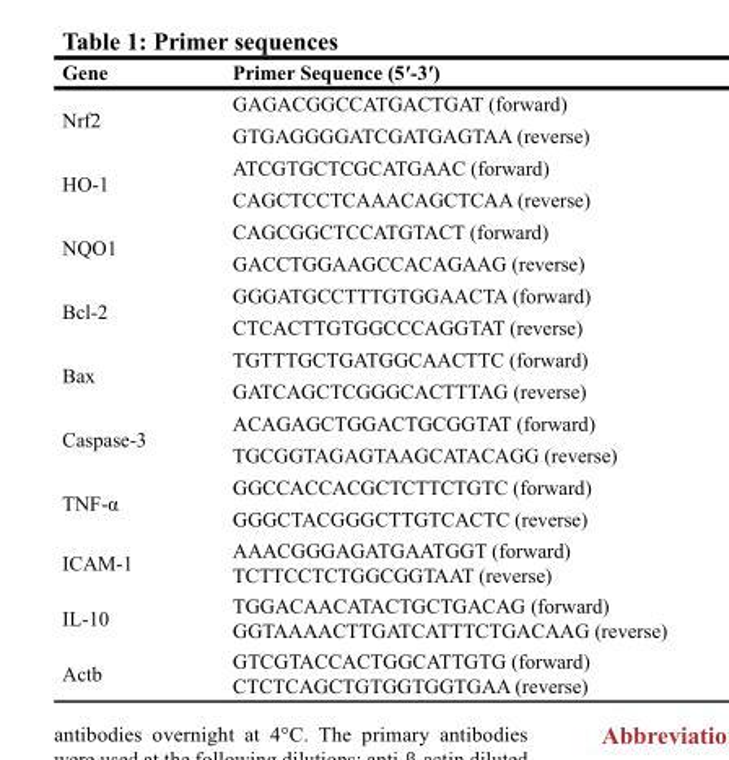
<table><thead><tr><td>Gene</td><td>Primer Sequence (5′-3′)</td></tr></thead><tbody><tr><td rowspan="2">Nrf2</td><td>GAGACGGCCATGACTGAT (forward)</td></tr><tr><td>GTGAGGGGATCGATGAGTAA (reverse)</td></tr><tr><td rowspan="2">HO-1</td><td>ATCGTGCTCGCATGAAC (forward)</td></tr><tr><td>CAGCTCCTCAAACAGCTCAA (reverse)</td></tr><tr><td rowspan="2">NQO1</td><td>CAGCGGCTCCATGTACT (forward)</td></tr><tr><td>GACCTGGAAGCCACAGAAG (reverse)</td></tr><tr><td rowspan="2">Bcl-2</td><td>GGGATGCCTTTGTGGAACTA (forward)</td></tr><tr><td>CTCACTTGTGGCCCAGGTAT (reverse)</td></tr><tr><td rowspan="2">Bax</td><td>TGTTTGCTGATGGCAACTTC (forward)</td></tr><tr><td>GATCAGCTCGGGCACTTTAG (reverse)</td></tr><tr><td rowspan="2">Caspase-3</td><td>ACAGAGCTGGACTGCGGTAT (forward)</td></tr><tr><td>TGCGGTAGAGTAAGCATACAGG (reverse)</td></tr><tr><td rowspan="2">TNF-α</td><td>GGCCACCACGCTCTTCTGTC (forward)</td></tr><tr><td>GGGCTACGGGCTTGTCACTC (reverse)</td></tr><tr><td rowspan="2">ICAM-1</td><td>AAACGGGAGATGAATGGT (forward)</td></tr><tr><td>TCTTCCTCTGGCGGTAAT (reverse)</td></tr><tr><td rowspan="2">IL-10</td><td>TGGACAACATACTGCTGACAG (forward)</td></tr><tr><td>GGTAAAACTTGATCATTTCTGACAAG (reverse)</td></tr><tr><td rowspan="2">Actb</td><td>GTCGTACCACTGGCATTGTG (forward)</td></tr><tr><td>CTCTCAGCTGTGGTGGTGAA (reverse)</td></tr></tbody></table>